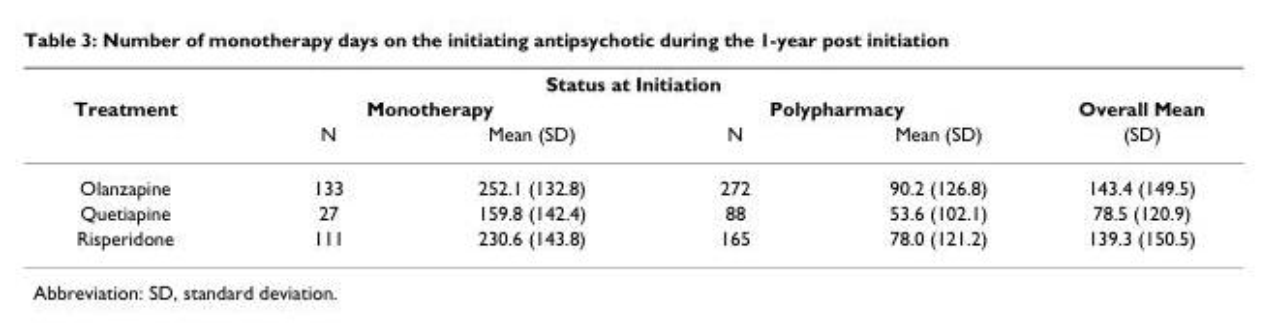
<table><thead><tr><td rowspan="3">Treatment</td><td colspan="4">Status at Initiation</td><td rowspan="3">Overall Mean (SD)</td></tr><tr><td colspan="2">Monotherapy</td><td colspan="2">Polypharmacy</td></tr><tr><td>N</td><td>Mean (SD)</td><td>N</td><td>Mean (SD)</td></tr></thead><tbody><tr><td>Olanzapine</td><td>133</td><td>252.1 (132.8)</td><td>272</td><td>90.2 (126.8)</td><td>143.4 (149.5)</td></tr><tr><td>Quetiapine</td><td>27</td><td>159.8 (142.4)</td><td>88</td><td>53.6 (102.1)</td><td>78.5 (120.9)</td></tr><tr><td>Risperidone</td><td>111</td><td>230.6 (143.8)</td><td>165</td><td>78.0 (121.2)</td><td>139.3 (150.5)</td></tr></tbody></table>